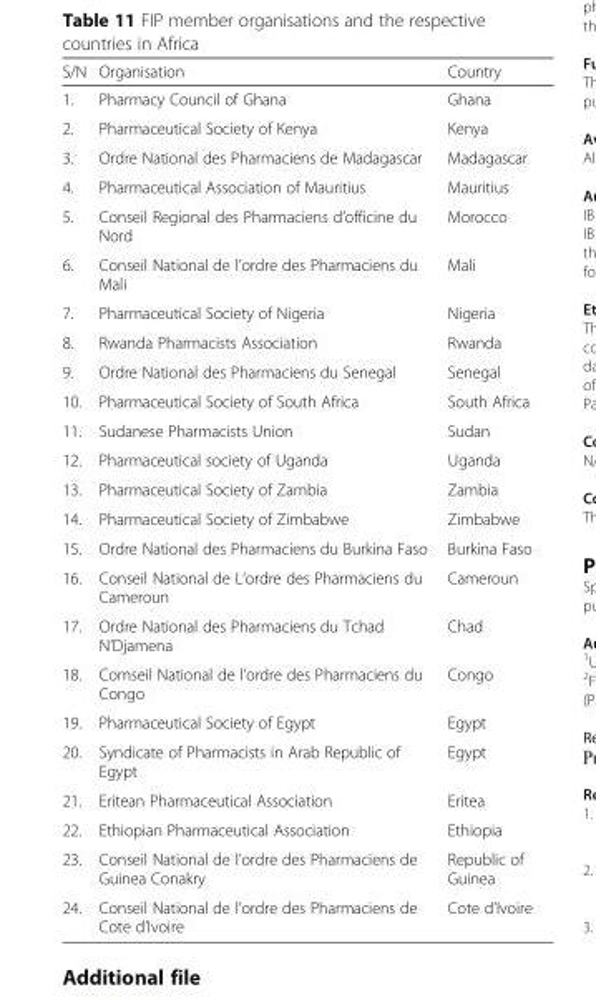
<table><thead><tr><td>S/N</td><td>Organisation</td><td>Country</td></tr></thead><tbody><tr><td>1.</td><td>Pharmacy Council of Ghana</td><td>Ghana</td></tr><tr><td>2.</td><td>Pharmaceutical Society of Kenya</td><td>Kenya</td></tr><tr><td>3.</td><td>Ordre National des Pharmaciens de Madagascar</td><td>Madagascar</td></tr><tr><td>4.</td><td>Pharmaceutical Association of Mauritius</td><td>Mauritius</td></tr><tr><td>5.</td><td>Conseil Regional des Pharmaciens d’officine du Nord</td><td>Morocco</td></tr><tr><td>6.</td><td>Conseil National de l’ordre des Pharmaciens du Mali</td><td>Mali</td></tr><tr><td>7.</td><td>Pharmaceutical Society of Nigeria</td><td>Nigeria</td></tr><tr><td>8.</td><td>Rwanda Pharmacists Association</td><td>Rwanda</td></tr><tr><td>9.</td><td>Ordre National des Pharmaciens du Senegal</td><td>Senegal</td></tr><tr><td>10.</td><td>Pharmaceutical Society of South Africa</td><td>South Africa</td></tr><tr><td>11.</td><td>Sudanese Pharmacists Union</td><td>Sudan</td></tr><tr><td>12.</td><td>Pharmaceutical society of Uganda</td><td>Uganda</td></tr><tr><td>13.</td><td>Pharmaceutical Society of Zambia</td><td>Zambia</td></tr><tr><td>14.</td><td>Pharmaceutical Society of Zimbabwe</td><td>Zimbabwe</td></tr><tr><td>15.</td><td>Ordre National des Pharmaciens du Burkina Faso</td><td>Burkina Faso</td></tr><tr><td>16.</td><td>Conseil National de L’ordre des Pharmaciens du Cameroun</td><td>Cameroun</td></tr><tr><td>17.</td><td>Ordre National des Pharmaciens du Tchad N’Djamena</td><td>Chad</td></tr><tr><td>18.</td><td>Comseil National de l’ordre des Pharmaciens du Congo</td><td>Congo</td></tr><tr><td>19.</td><td>Pharmaceutical Society of Egypt</td><td>Egypt</td></tr><tr><td>20.</td><td>Syndicate of Pharmacists in Arab Republic of Egypt</td><td>Egypt</td></tr><tr><td>21.</td><td>Eritean Pharmaceutical Association</td><td>Eritea</td></tr><tr><td>22.</td><td>Ethiopian Pharmaceutical Association</td><td>Ethiopia</td></tr><tr><td>23.</td><td>Conseil National de l’ordre des Pharmaciens de Guinea Conakry</td><td>Republic of Guinea</td></tr><tr><td>24.</td><td>Conseil National de l’ordre des Pharmaciens de Cote d’Ivoire</td><td>Cote d’Ivoire</td></tr></tbody></table>